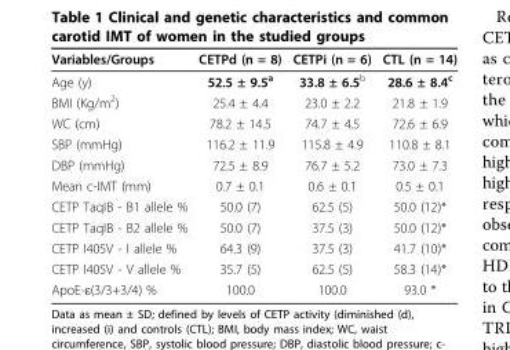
<table><thead><tr><td>Variables/Groups</td><td>CETPd (n = 8)</td><td>CETPi (n = 6)</td><td>CTL (n = 14)</td></tr></thead><tbody><tr><td>Age (y)</td><td>52.5 ± 9.5<sup>a</sup></td><td>33.8 ± 6.5<sup>b</sup></td><td>28.6 ± 8.4<sup>c</sup></td></tr><tr><td>BMI (Kg/m<sup>2</sup>)</td><td>25.4 ± 4.4</td><td>23.0 ± 2.2</td><td>21.8 ± 1.9</td></tr><tr><td>WC (cm)</td><td>78.2 ± 14.5</td><td>74.7 ± 4.5</td><td>72.6 ± 6.9</td></tr><tr><td>SBP (mmHg)</td><td>116.2 ± 11.9</td><td>115.8 ± 4.9</td><td>110.8 ± 8.1</td></tr><tr><td>DBP (mmHg)</td><td>72.5 ± 8.9</td><td>76.7 ± 5.2</td><td>73.0 ± 7.3</td></tr><tr><td>Mean c-IMT (mm)</td><td>0.7 ± 0.1</td><td>0.6 ± 0.1</td><td>0.5 ± 0.1</td></tr><tr><td>CETP TaqIB - B1 allele %</td><td>50.0 (7)</td><td>62.5 (5)</td><td>50.0 (12)*</td></tr><tr><td>CETP TaqIB - B2 allele %</td><td>50.0 (7)</td><td>37.5 (3)</td><td>50.0 (12)*</td></tr><tr><td>CETP I405V - I allele %</td><td>64.3 (9)</td><td>37.5 (3)</td><td>41.7 (10)*</td></tr><tr><td>CETP I405V - V allele %</td><td>35.7 (5)</td><td>62.5 (5)</td><td>58.3 (14)*</td></tr><tr><td>ApoE-ε(3/3+3/4) %</td><td>100.0</td><td>100.0</td><td>93.0 *</td></tr></tbody></table>